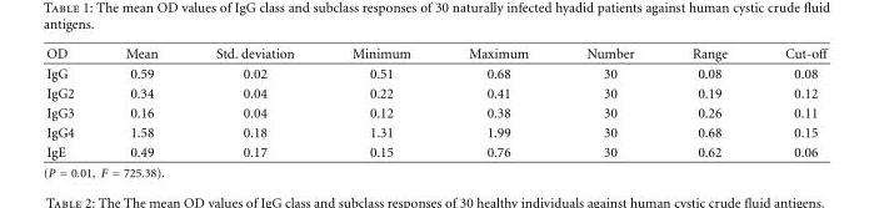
<table><thead><tr><td>OD</td><td>Mean</td><td>Std. deviation</td><td>Minimum</td><td>Maximum</td><td>Number</td><td>Range</td><td>Cut-off</td></tr></thead><tbody><tr><td>IgG</td><td>0.59</td><td>0.02</td><td>0.51</td><td>0.68</td><td>30</td><td>0.08</td><td>0.08</td></tr><tr><td>IgG2</td><td>0.34</td><td>0.04</td><td>0.22</td><td>0.41</td><td>30</td><td>0.19</td><td>0.12</td></tr><tr><td>IgG3</td><td>0.16</td><td>0.04</td><td>0.12</td><td>0.38</td><td>30</td><td>0.26</td><td>0.11</td></tr><tr><td>IgG4</td><td>1.58</td><td>0.18</td><td>1.31</td><td>1.99</td><td>30</td><td>0.68</td><td>0.15</td></tr><tr><td>IgE</td><td>0.49</td><td>0.17</td><td>0.15</td><td>0.76</td><td>30</td><td>0.62</td><td>0.06</td></tr></tbody></table>